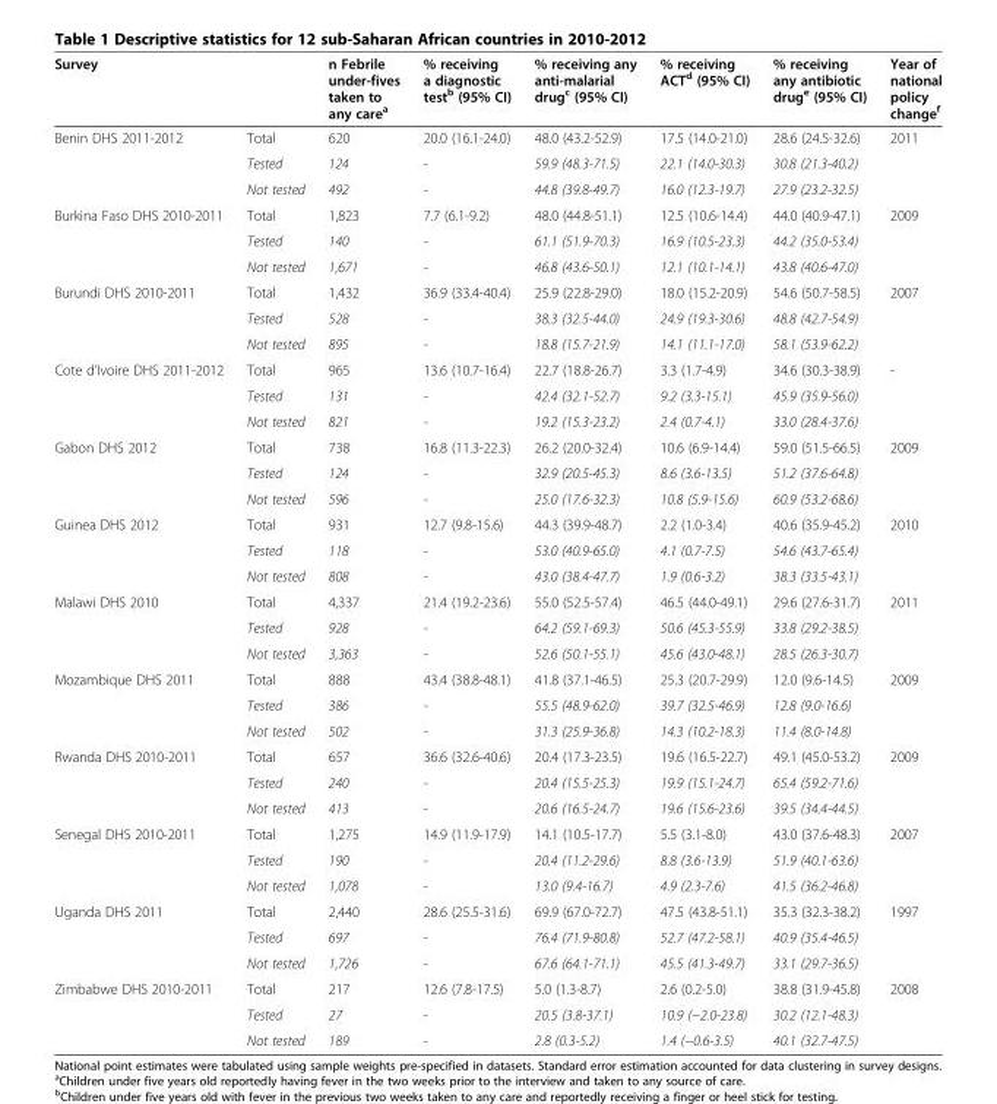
<table><thead><tr><td>Survey</td><td></td><td>n Febrile under-fives taken to any care<sup>a</sup></td><td>% receiving a diagnostic test<sup>b</sup> (95% CI)</td><td>% receiving any anti-malarial drug<sup>c</sup> (95% CI)</td><td>% receiving ACT<sup>d</sup> (95% CI)</td><td>% receiving any antibiotic drug<sup>e</sup> (95% CI)</td><td>Year of national policy change<sup>f</sup></td></tr></thead><tbody><tr><td rowspan="3">Benin DHS 2011-2012</td><td>Total</td><td>620</td><td>20.0 (16.1-24.0)</td><td>48.0 (43.2-52.9)</td><td>17.5 (14.0-21.0)</td><td>28.6 (24.5-32.6)</td><td>2011</td></tr><tr><td>Tested</td><td>124</td><td>-</td><td>59.9 (48.3-71.5)</td><td>22.1 (14.0-30.3)</td><td>30.8 (21.3-40.2)</td><td></td></tr><tr><td>Not tested</td><td>492</td><td>-</td><td>44.8 (39.8-49.7)</td><td>16.0 (12.3-19.7)</td><td>27.9 (23.2-32.5)</td><td></td></tr><tr><td rowspan="3">Burkina Faso DHS 2010-2011</td><td>Total</td><td>1,823</td><td>7.7 (6.1-9.2)</td><td>48.0 (44.8-51.1)</td><td>12.5 (10.6-14.4)</td><td>44.0 (40.9-47.1)</td><td>2009</td></tr><tr><td>Tested</td><td>140</td><td>-</td><td>61.1 (51.9-70.3)</td><td>16.9 (10.5-23.3)</td><td>44.2 (35.0-53.4)</td><td></td></tr><tr><td>Not tested</td><td>1,671</td><td>-</td><td>46.8 (43.6-50.1)</td><td>12.1 (10.1-14.1)</td><td>43.8 (40.6-47.0)</td><td></td></tr><tr><td rowspan="3">Burundi DHS 2010-2011</td><td>Total</td><td>1,432</td><td>36.9 (33.4-40.4)</td><td>25.9 (22.8-29.0)</td><td>18.0 (15.2-20.9)</td><td>54.6 (50.7-58.5)</td><td>2007</td></tr><tr><td>Tested</td><td>528</td><td>-</td><td>38.3 (32.5-44.0)</td><td>24.9 (19.3-30.6)</td><td>48.8 (42.7-54.9)</td><td></td></tr><tr><td>Not tested</td><td>895</td><td>-</td><td>18.8 (15.7-21.9)</td><td>14.1 (11.1-17.0)</td><td>58.1 (53.9-62.2)</td><td></td></tr><tr><td rowspan="3">Cote d’Ivoire DHS 2011-2012</td><td>Total</td><td>965</td><td>13.6 (10.7-16.4)</td><td>22.7 (18.8-26.7)</td><td>3.3 (1.7-4.9)</td><td>34.6 (30.3-38.9)</td><td>-</td></tr><tr><td>Tested</td><td>131</td><td>-</td><td>42.4 (32.1-52.7)</td><td>9.2 (3.3-15.1)</td><td>45.9 (35.9-56.0)</td><td></td></tr><tr><td>Not tested</td><td>821</td><td>-</td><td>19.2 (15.3-23.2)</td><td>2.4 (0.7-4.1)</td><td>33.0 (28.4-37.6)</td><td></td></tr><tr><td rowspan="3">Gabon DHS 2012</td><td>Total</td><td>738</td><td>16.8 (11.3-22.3)</td><td>26.2 (20.0-32.4)</td><td>10.6 (6.9-14.4)</td><td>59.0 (51.5-66.5)</td><td>2009</td></tr><tr><td>Tested</td><td>124</td><td>-</td><td>32.9 (20.5-45.3)</td><td>8.6 (3.6-13.5)</td><td>51.2 (37.6-64.8)</td><td></td></tr><tr><td>Not tested</td><td>596</td><td>-</td><td>25.0 (17.6-32.3)</td><td>10.8 (5.9-15.6)</td><td>60.9 (53.2-68.6)</td><td></td></tr><tr><td rowspan="3">Guinea DHS 2012</td><td>Total</td><td>931</td><td>12.7 (9.8-15.6)</td><td>44.3 (39.9-48.7)</td><td>2.2 (1.0-3.4)</td><td>40.6 (35.9-45.2)</td><td>2010</td></tr><tr><td>Tested</td><td>118</td><td>-</td><td>53.0 (40.9-65.0)</td><td>4.1 (0.7-7.5)</td><td>54.6 (43.7-65.4)</td><td></td></tr><tr><td>Not tested</td><td>808</td><td>-</td><td>43.0 (38.4-47.7)</td><td>1.9 (0.6-3.2)</td><td>38.3 (33.5-43.1)</td><td></td></tr><tr><td rowspan="3">Malawi DHS 2010</td><td>Total</td><td>4,337</td><td>21.4 (19.2-23.6)</td><td>55.0 (52.5-57.4)</td><td>46.5 (44.0-49.1)</td><td>29.6 (27.6-31.7)</td><td>2011</td></tr><tr><td>Tested</td><td>928</td><td>-</td><td>64.2 (59.1-69.3)</td><td>50.6 (45.3-55.9)</td><td>33.8 (29.2-38.5)</td><td></td></tr><tr><td>Not tested</td><td>3,363</td><td>-</td><td>52.6 (50.1-55.1)</td><td>45.6 (43.0-48.1)</td><td>28.5 (26.3-30.7)</td><td></td></tr><tr><td rowspan="3">Mozambique DHS 2011</td><td>Total</td><td>888</td><td>43.4 (38.8-48.1)</td><td>41.8 (37.1-46.5)</td><td>25.3 (20.7-29.9)</td><td>12.0 (9.6-14.5)</td><td>2009</td></tr><tr><td>Tested</td><td>386</td><td>-</td><td>55.5 (48.9-62.0)</td><td>39.7 (32.5-46.9)</td><td>12.8 (9.0-16.6)</td><td></td></tr><tr><td>Not tested</td><td>502</td><td>-</td><td>31.3 (25.9-36.8)</td><td>14.3 (10.2-18.3)</td><td>11.4 (8.0-14.8)</td><td></td></tr><tr><td rowspan="3">Rwanda DHS 2010-2011</td><td>Total</td><td>657</td><td>36.6 (32.6-40.6)</td><td>20.4 (17.3-23.5)</td><td>19.6 (16.5-22.7)</td><td>49.1 (45.0-53.2)</td><td>2009</td></tr><tr><td>Tested</td><td>240</td><td>-</td><td>20.4 (15.5-25.3)</td><td>19.9 (15.1-24.7)</td><td>65.4 (59.2-71.6)</td><td></td></tr><tr><td>Not tested</td><td>413</td><td>-</td><td>20.6 (16.5-24.7)</td><td>19.6 (15.6-23.6)</td><td>39.5 (34.4-44.5)</td><td></td></tr><tr><td rowspan="3">Senegal DHS 2010-2011</td><td>Total</td><td>1,275</td><td>14.9 (11.9-17.9)</td><td>14.1 (10.5-17.7)</td><td>5.5 (3.1-8.0)</td><td>43.0 (37.6-48.3)</td><td>2007</td></tr><tr><td>Tested</td><td>190</td><td>-</td><td>20.4 (11.2-29.6)</td><td>8.8 (3.6-13.9)</td><td>51.9 (40.1-63.6)</td><td></td></tr><tr><td>Not tested</td><td>1,078</td><td>-</td><td>13.0 (9.4-16.7)</td><td>4.9 (2.3-7.6)</td><td>41.5 (36.2-46.8)</td><td></td></tr><tr><td rowspan="3">Uganda DHS 2011</td><td>Total</td><td>2,440</td><td>28.6 (25.5-31.6)</td><td>69.9 (67.0-72.7)</td><td>47.5 (43.8-51.1)</td><td>35.3 (32.3-38.2)</td><td>1997</td></tr><tr><td>Tested</td><td>697</td><td>-</td><td>76.4 (71.9-80.8)</td><td>52.7 (47.2-58.1)</td><td>40.9 (35.4-46.5)</td><td></td></tr><tr><td>Not tested</td><td>1,726</td><td>-</td><td>67.6 (64.1-71.1)</td><td>45.5 (41.3-49.7)</td><td>33.1 (29.7-36.5)</td><td></td></tr><tr><td rowspan="3">Zimbabwe DHS 2010-2011</td><td>Total</td><td>217</td><td>12.6 (7.8-17.5)</td><td>5.0 (1.3-8.7)</td><td>2.6 (0.2-5.0)</td><td>38.8 (31.9-45.8)</td><td>2008</td></tr><tr><td>Tested</td><td>27</td><td>-</td><td>20.5 (3.8-37.1)</td><td>10.9 (−2.0-23.8)</td><td>30.2 (12.1-48.3)</td><td></td></tr><tr><td>Not tested</td><td>189</td><td>-</td><td>2.8 (0.3-5.2)</td><td>1.4 (−0.6-3.5)</td><td>40.1 (32.7-47.5)</td><td></td></tr></tbody></table>